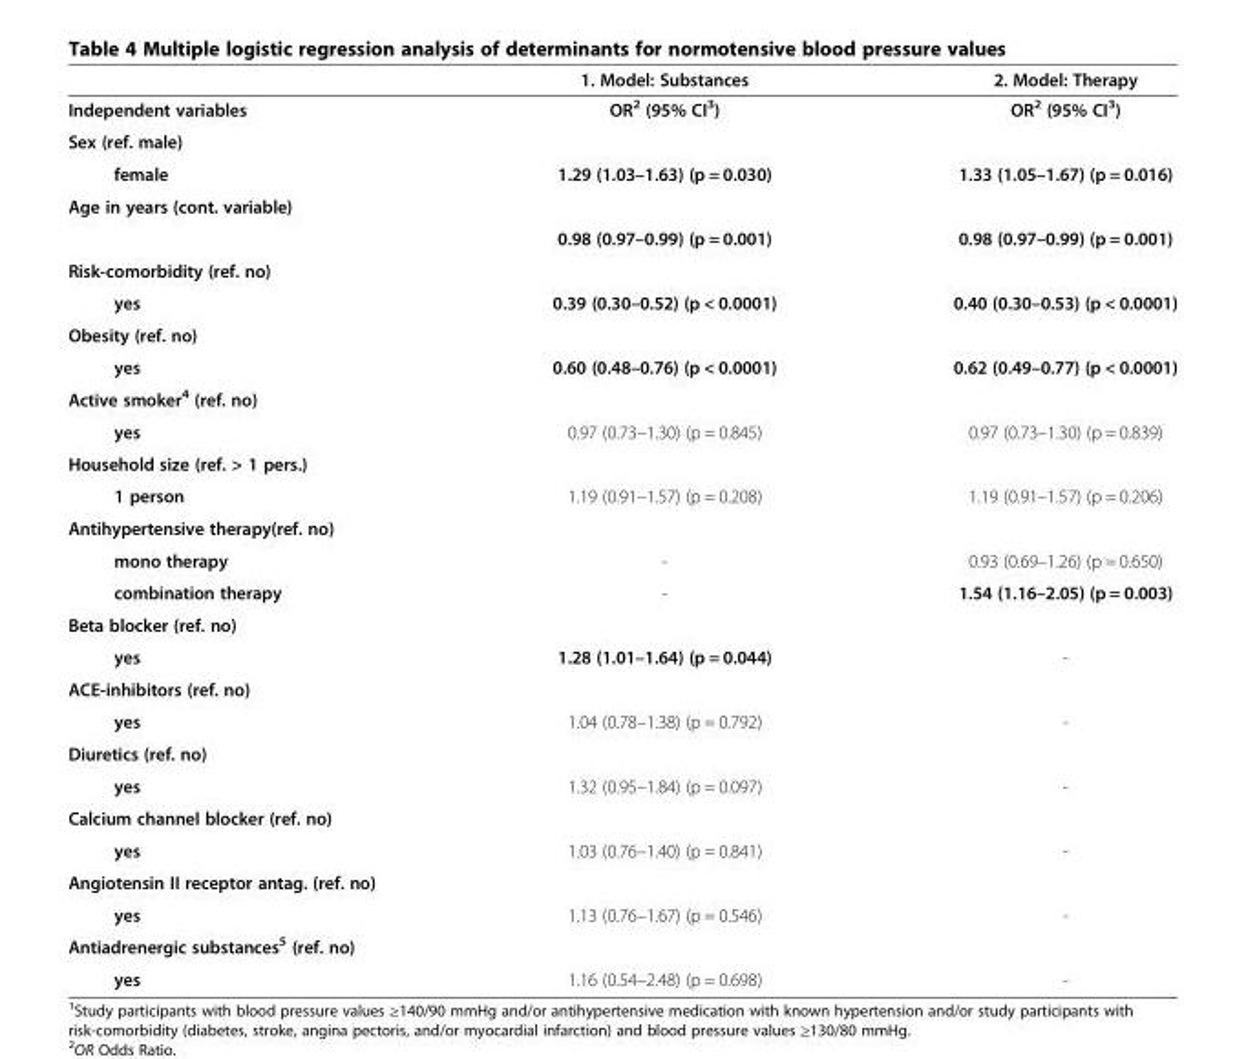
<table><thead><tr><td></td><td>1. Model: Substances</td><td>2. Model: Therapy</td></tr></thead><tbody><tr><td>Independent variables</td><td>OR<sup>2</sup> (95% CI<sup>3</sup>)</td><td>OR<sup>2</sup> (95% CI<sup>3</sup>)</td></tr><tr><td colspan="3">Sex (ref. male)</td></tr><tr><td>female</td><td>1.29 (1.03–1.63) (p = 0.030)</td><td>1.33 (1.05–1.67) (p = 0.016)</td></tr><tr><td colspan="3">Age in years (cont. variable)</td></tr><tr><td></td><td>0.98 (0.97–0.99) (p = 0.001)</td><td>0.98 (0.97–0.99) (p = 0.001)</td></tr><tr><td colspan="3">Risk-comorbidity (ref. no)</td></tr><tr><td>yes</td><td>0.39 (0.30–0.52) (p &lt; 0.0001)</td><td>0.40 (0.30–0.53) (p &lt; 0.0001)</td></tr><tr><td colspan="3">Obesity (ref. no)</td></tr><tr><td>yes</td><td>0.60 (0.48–0.76) (p &lt; 0.0001)</td><td>0.62 (0.49–0.77) (p &lt; 0.0001)</td></tr><tr><td colspan="3">Active smoker<sup>4</sup> (ref. no)</td></tr><tr><td>yes</td><td>0.97 (0.73–1.30) (p = 0.845)</td><td>0.97 (0.73–1.30) (p = 0.839)</td></tr><tr><td colspan="3">Household size (ref. &gt; 1 pers.)</td></tr><tr><td>1 person</td><td>1.19 (0.91–1.57) (p = 0.208)</td><td>1.19 (0.91–1.57) (p = 0.206)</td></tr><tr><td colspan="3">Antihypertensive therapy(ref. no)</td></tr><tr><td>mono therapy</td><td>-</td><td>0.93 (0.69–1.26) (p = 0.650)</td></tr><tr><td>combination therapy</td><td>-</td><td>1.54 (1.16–2.05) (p = 0.003)</td></tr><tr><td colspan="3">Beta blocker (ref. no)</td></tr><tr><td>yes</td><td>1.28 (1.01–1.64) (p = 0.044)</td><td>-</td></tr><tr><td colspan="3">ACE-inhibitors (ref. no)</td></tr><tr><td>yes</td><td>1.04 (0.78–1.38) (p = 0.792)</td><td>-</td></tr><tr><td colspan="3">Diuretics (ref. no)</td></tr><tr><td>yes</td><td>1.32 (0.95–1.84) (p = 0.097)</td><td>-</td></tr><tr><td colspan="3">Calcium channel blocker (ref. no)</td></tr><tr><td>yes</td><td>1.03 (0.76–1.40) (p = 0.841)</td><td>-</td></tr><tr><td colspan="3">Angiotensin II receptor antag. (ref. no)</td></tr><tr><td>yes</td><td>1.13 (0.76–1.67) (p = 0.546)</td><td>-</td></tr><tr><td colspan="3">Antiadrenergic substances<sup>5</sup> (ref. no)</td></tr><tr><td>yes</td><td>1.16 (0.54–2.48) (p = 0.698)</td><td>-</td></tr></tbody></table>